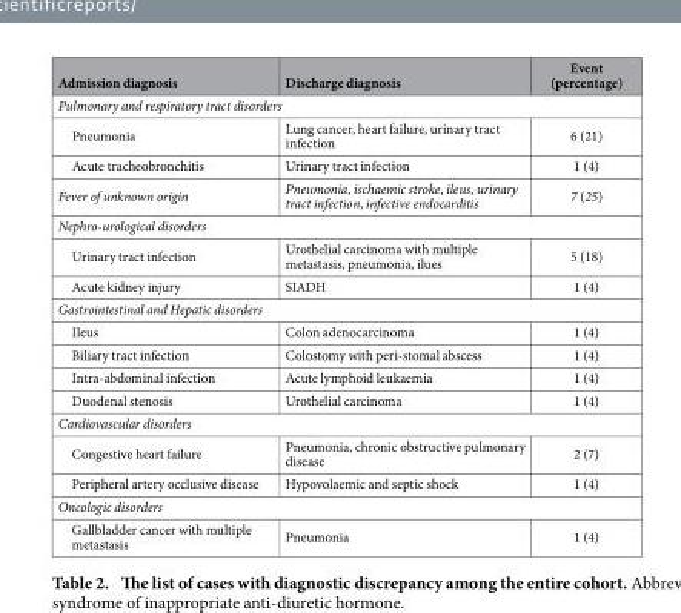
<table><thead><tr><td>Admission diagnosis</td><td>Discharge diagnosis</td><td>Event (percentage)</td></tr></thead><tbody><tr><td colspan="3">Pulmonary and respiratory tract disorders</td></tr><tr><td>Pneumonia</td><td>Lung cancer, heart failure, urinary tract infection</td><td>6 (21)</td></tr><tr><td>Acute tracheobronchitis</td><td>Urinary tract infection</td><td>1 (4)</td></tr><tr><td>Fever of unknown origin</td><td>Pneumonia, ischaemic stroke, ileus, urinary tract infection, infective endocarditis</td><td>7 (25)</td></tr><tr><td colspan="3">Nephro-urological disorders</td></tr><tr><td>Urinary tract infection</td><td>Urothelial carcinoma with multiple metastasis, pneumonia, ilues</td><td>5 (18)</td></tr><tr><td>Acute kidney injury</td><td>SIADH</td><td>1 (4)</td></tr><tr><td colspan="3">Gastrointestinal and Hepatic disorders</td></tr><tr><td>Ileus</td><td>Colon adenocarcinoma</td><td>1 (4)</td></tr><tr><td>Biliary tract infection</td><td>Colostomy with peri-stomal abscess</td><td>1 (4)</td></tr><tr><td>Intra-abdominal infection</td><td>Acute lymphoid leukaemia</td><td>1 (4)</td></tr><tr><td>Duodenal stenosis</td><td>Urothelial carcinoma</td><td>1 (4)</td></tr><tr><td colspan="3">Cardiovascular disorders</td></tr><tr><td>Congestive heart failure</td><td>Pneumonia, chronic obstructive pulmonary disease</td><td>2 (7)</td></tr><tr><td>Peripheral artery occlusive disease</td><td>Hypovolaemic and septic shock</td><td>1 (4)</td></tr><tr><td colspan="3">Oncologic disorders</td></tr><tr><td>Gallbladder cancer with multiple metastasis</td><td>Pneumonia</td><td>1 (4)</td></tr></tbody></table>